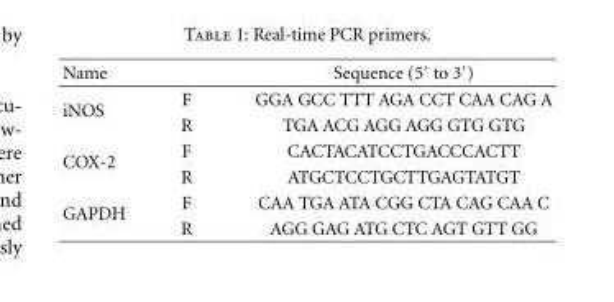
<table><thead><tr><td>Name</td><td></td><td>Sequence (5′ to 3′)</td></tr></thead><tbody><tr><td rowspan="2">iNOS</td><td>F</td><td>GGA GCC TTT AGA CCT CAA CAG A</td></tr><tr><td>R</td><td>TGA ACG AGG AGG GTG GTG</td></tr><tr><td rowspan="2">COX-2</td><td>F</td><td>CACTACATCCTGACCCACTT</td></tr><tr><td>R</td><td>ATGCTCCTGCTTGAGTATGT</td></tr><tr><td rowspan="2">GAPDH</td><td>F</td><td>CAA TGA ATA CGG CTA CAG CAA C</td></tr><tr><td>R</td><td>AGG GAG ATG CTC AGT GTT GG</td></tr></tbody></table>